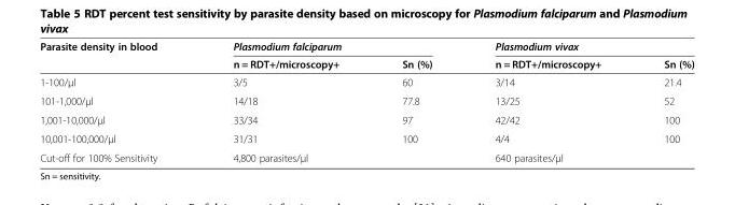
<table><thead><tr><td rowspan="2">Parasite density in blood</td><td colspan="2">Plasmodium falciparum</td><td colspan="2">Plasmodium vivax</td></tr><tr><td>n = RDT+/microscopy+</td><td>Sn (%)</td><td>n = RDT+/microscopy+</td><td>Sn (%)</td></tr></thead><tbody><tr><td>1-100/μl</td><td>3/5</td><td>60</td><td>3/14</td><td>21.4</td></tr><tr><td>101-1,000/μl</td><td>14/18</td><td>77.8</td><td>13/25</td><td>52</td></tr><tr><td>1,001-10,000/μl</td><td>33/34</td><td>97</td><td>42/42</td><td>100</td></tr><tr><td>10,001-100,000/μl</td><td>31/31</td><td>100</td><td>4/4</td><td>100</td></tr><tr><td>Cut-off for 100% Sensitivity</td><td colspan="2">4,800 parasites/μl</td><td colspan="2">640 parasites/μl</td></tr></tbody></table>